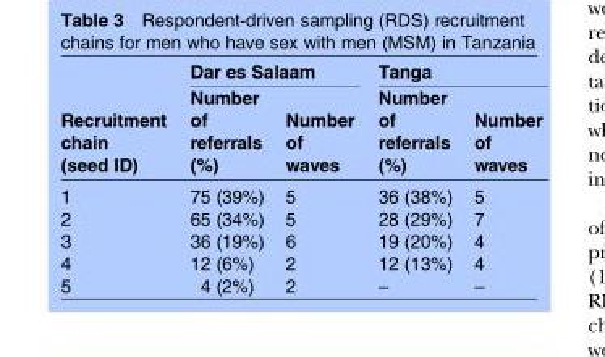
<table><thead><tr><td rowspan="2">Recruitment chain (seed ID)</td><td colspan="2">Dar es Salaam</td><td colspan="2">Tanga</td></tr><tr><td>Number of referrals (%)</td><td>Number of waves</td><td>Number of referrals (%)</td><td>Number of waves</td></tr></thead><tbody><tr><td>1</td><td>75 (39%)</td><td>5</td><td>36 (38%)</td><td>5</td></tr><tr><td>2</td><td>65 (34%)</td><td>5</td><td>28 (29%)</td><td>7</td></tr><tr><td>3</td><td>36 (19%)</td><td>6</td><td>19 (20%)</td><td>4</td></tr><tr><td>4</td><td>12 (6%)</td><td>2</td><td>12 (13%)</td><td>4</td></tr><tr><td>5</td><td>4 (2%)</td><td>2</td><td>–</td><td>–</td></tr></tbody></table>